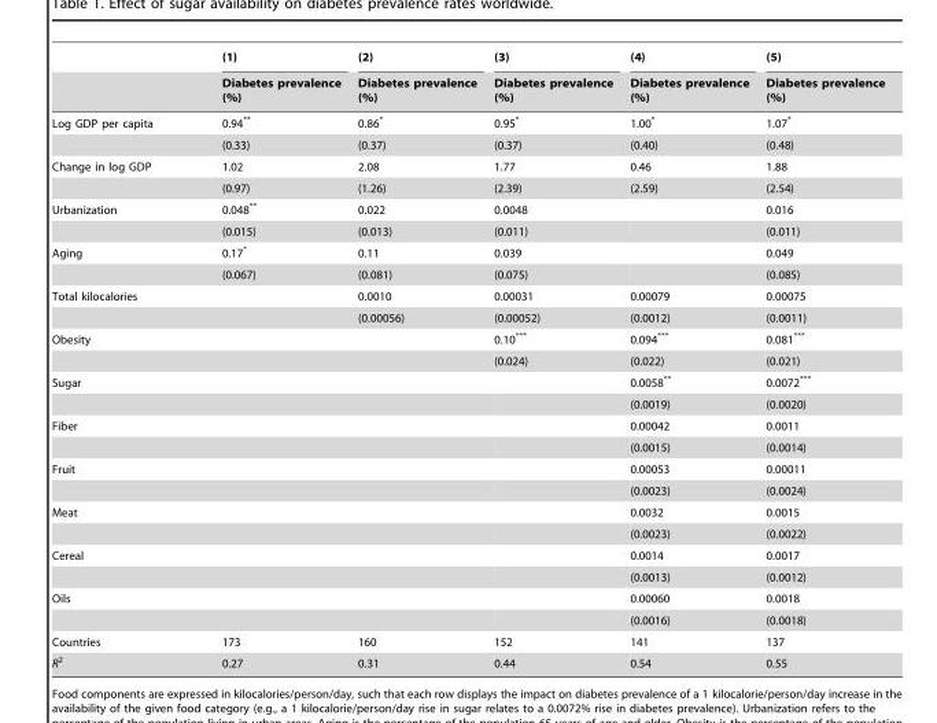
<table><thead><tr><td rowspan="2"></td><td rowspan="2">(1) Diabetes prevalence (%)</td><td rowspan="2">(2) Diabetes prevalence (%)</td><td rowspan="2">(3) Diabetes prevalence (%)</td><td rowspan="2">(4) Diabetes prevalence (%)</td><td rowspan="2">(5) Diabetes prevalence (%)</td></tr><tr></tr></thead><tbody><tr><td rowspan="2">Log GDP per capita</td><td>0.94**</td><td>0.86*</td><td>0.95*</td><td>1.00*</td><td>1.07*</td></tr><tr><td>(0.33)</td><td>(0.37)</td><td>(0.37)</td><td>(0.40)</td><td>(0.48)</td></tr><tr><td rowspan="2">Change in log GDP</td><td>1.02</td><td>2.08</td><td>1.77</td><td>0.46</td><td>1.88</td></tr><tr><td>(0.97)</td><td>(1.26)</td><td>(2.39)</td><td>(2.59)</td><td>(2.54)</td></tr><tr><td rowspan="2">Urbanization</td><td>0.048**</td><td>0.022</td><td>0.0048</td><td></td><td>0.016</td></tr><tr><td>(0.015)</td><td>(0.013)</td><td>(0.011)</td><td></td><td>(0.011)</td></tr><tr><td rowspan="2">Aging</td><td>0.17*</td><td>0.11</td><td>0.039</td><td></td><td>0.049</td></tr><tr><td>(0.067)</td><td>(0.081)</td><td>(0.075)</td><td></td><td>(0.085)</td></tr><tr><td rowspan="2">Total kilocalories</td><td></td><td>0.0010</td><td>0.00031</td><td>0.00079</td><td>0.00075</td></tr><tr><td></td><td>(0.00056)</td><td>(0.00052)</td><td>(0.0012)</td><td>(0.0011)</td></tr><tr><td rowspan="2">Obesity</td><td></td><td></td><td>0.10***</td><td>0.094***</td><td>0.081***</td></tr><tr><td></td><td></td><td>(0.024)</td><td>(0.022)</td><td>(0.021)</td></tr><tr><td rowspan="2">Sugar</td><td></td><td></td><td></td><td>0.0058**</td><td>0.0072***</td></tr><tr><td></td><td></td><td></td><td>(0.0019)</td><td>(0.0020)</td></tr><tr><td rowspan="2">Fiber</td><td></td><td></td><td></td><td>0.00042</td><td>0.0011</td></tr><tr><td></td><td></td><td></td><td>(0.0015)</td><td>(0.0014)</td></tr><tr><td rowspan="2">Fruit</td><td></td><td></td><td></td><td>0.00053</td><td>0.00011</td></tr><tr><td></td><td></td><td></td><td>(0.0023)</td><td>(0.0024)</td></tr><tr><td rowspan="2">Meat</td><td></td><td></td><td></td><td>0.0032</td><td>0.0015</td></tr><tr><td></td><td></td><td></td><td>(0.0023)</td><td>(0.0022)</td></tr><tr><td rowspan="2">Cereal</td><td></td><td></td><td></td><td>0.0014</td><td>0.0017</td></tr><tr><td></td><td></td><td></td><td>(0.0013)</td><td>(0.0012)</td></tr><tr><td rowspan="2">Oils</td><td></td><td></td><td></td><td>0.00060</td><td>0.0018</td></tr><tr><td></td><td></td><td></td><td>(0.0016)</td><td>(0.0018)</td></tr><tr><td>Countries</td><td>173</td><td>160</td><td>152</td><td>141</td><td>137</td></tr><tr><td>R<sup>2</sup></td><td>0.27</td><td>0.31</td><td>0.44</td><td>0.54</td><td>0.55</td></tr></tbody></table>